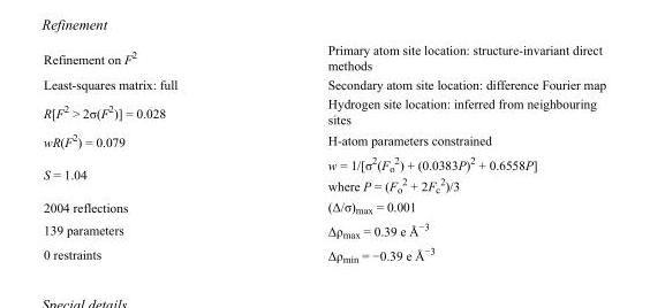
<table><tbody><tr><td>Refinement on F<sup>2</sup></td><td>Primary atom site location: structure-invariant direct methods</td></tr><tr><td>Least-squares matrix: full</td><td>Secondary atom site location: difference Fourier map</td></tr><tr><td>R[F<sup>2</sup> &gt; 2σ(F<sup>2</sup>)] = 0.028</td><td>Hydrogen site location: inferred from neighbouring sites</td></tr><tr><td>wR(F<sup>2</sup>) = 0.079</td><td>H-atom parameters constrained</td></tr><tr><td>S = 1.04</td><td>w = 1/[σ<sup>2</sup>(F<sub>o</sub> <sup>2</sup>) + (0.0383P)<sup>2</sup> + 0.6558P] where P = (F<sub>o</sub> <sup>2</sup> + 2F<sub>c</sub> <sup>2</sup>)/3</td></tr><tr><td>2004 reflections</td><td>(Δ/σ)<sub>max</sub> = 0.001</td></tr><tr><td>139 parameters</td><td>Δρ<sub>max</sub> = 0.39 e Å<sup>−3</sup></td></tr><tr><td>0 restraints</td><td>Δρ<sub>min</sub> = −0.39 e Å<sup>−3</sup></td></tr></tbody></table>